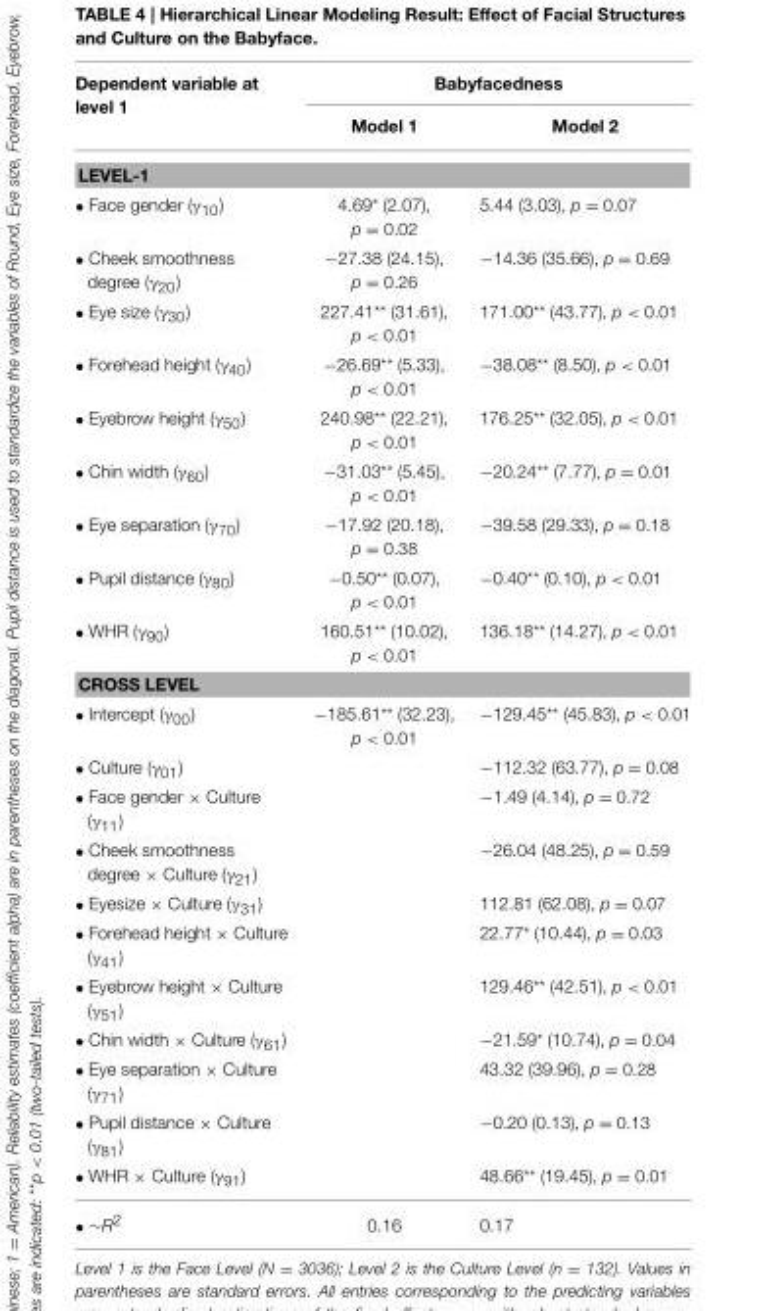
<table><thead><tr><td rowspan="2">Dependent variable at level 1</td><td colspan="2">Babyfacedness</td></tr><tr><td>Model 1</td><td>Model 2</td></tr></thead><tbody><tr><td colspan="3">LEVEL-1</td></tr><tr><td>• Face gender (γ<sub>10</sub>)</td><td>4.69* (2.07), p = 0.02</td><td>5.44 (3.03), p = 0.07</td></tr><tr><td>• Cheek smoothness degree (γ<sub>20</sub>)</td><td>−27.38 (24.15), p = 0.26</td><td>−14.36 (35.66), p = 0.69</td></tr><tr><td>• Eye size (γ<sub>30</sub>)</td><td>227.41** (31.61), p &lt; 0.01</td><td>171.00** (43.77), p &lt; 0.01</td></tr><tr><td>• Forehead height (γ<sub>40</sub>)</td><td>−26.69** (5.33), p &lt; 0.01</td><td>−38.08** (8.50), p &lt; 0.01</td></tr><tr><td>• Eyebrow height (γ<sub>50</sub>)</td><td>240.98** (22.21), p &lt; 0.01</td><td>176.25** (32.05), p &lt; 0.01</td></tr><tr><td>• Chin width (γ<sub>60</sub>)</td><td>−31.03** (5.45), p &lt; 0.01</td><td>−20.24** (7.77), p = 0.01</td></tr><tr><td>• Eye separation (γ<sub>70</sub>)</td><td>−17.92 (20.18), p = 0.38</td><td>−39.58 (29.33), p = 0.18</td></tr><tr><td>• Pupil distance (γ<sub>80</sub>)</td><td>−0.50** (0.07), p &lt; 0.01</td><td>−0.40** (0.10), p &lt; 0.01</td></tr><tr><td>• WHR (γ<sub>90</sub>)</td><td>160.51** (10.02), p &lt; 0.01</td><td>136.18** (14.27), p &lt; 0.01</td></tr><tr><td colspan="3">CROSS LEVEL</td></tr><tr><td>• Intercept (γ<sub>00</sub>)</td><td>−185.61** (32.23), p &lt; 0.01</td><td>−129.45** (45.83), p &lt; 0.01</td></tr><tr><td>• Culture (γ<sub>01</sub>)</td><td></td><td>−112.32 (63.77), p = 0.08</td></tr><tr><td>• Face gender × Culture (γ<sub>11</sub>)</td><td></td><td>−1.49 (4.14), p = 0.72</td></tr><tr><td>• Cheek smoothness degree × Culture (γ<sub>21</sub>)</td><td></td><td>−26.04 (48.25), p = 0.59</td></tr><tr><td>• Eyesize × Culture (γ<sub>31</sub>)</td><td></td><td>112.81 (62.08), p = 0.07</td></tr><tr><td>• Forehead height × Culture (γ<sub>41</sub>)</td><td></td><td>22.77* (10.44), p = 0.03</td></tr><tr><td>• Eyebrow height × Culture (γ<sub>51</sub>)</td><td></td><td>129.46** (42.51), p &lt; 0.01</td></tr><tr><td>• Chin width × Culture (γ<sub>61</sub>)</td><td></td><td>−21.59* (10.74), p = 0.04</td></tr><tr><td>• Eye separation × Culture (γ<sub>71</sub>)</td><td></td><td>43.32 (39.96), p = 0.28</td></tr><tr><td>• Pupil distance × Culture (γ<sub>81</sub>)</td><td></td><td>−0.20 (0.13), p = 0.13</td></tr><tr><td>• WHR × Culture (γ91)</td><td></td><td>48.66** (19.45), p = 0.01</td></tr><tr><td>• ∼R2</td><td>0.16</td><td>0.17</td></tr></tbody></table>